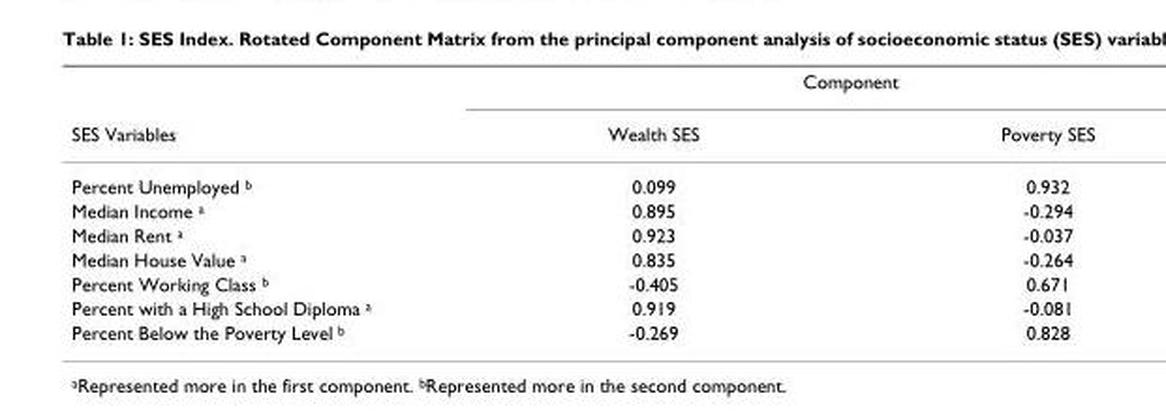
<table><thead><tr><td rowspan="2">SES Variables</td><td colspan="2">Component</td></tr><tr><td>Wealth SES</td><td>Poverty SES</td></tr></thead><tbody><tr><td>Percent Unemployed <sup>b</sup></td><td>0.099</td><td>0.932</td></tr><tr><td>Median Income <sup>a</sup></td><td>0.895</td><td>-0.294</td></tr><tr><td>Median Rent <sup>a</sup></td><td>0.923</td><td>-0.037</td></tr><tr><td>Median House Value <sup>a</sup></td><td>0.835</td><td>-0.264</td></tr><tr><td>Percent Working Class <sup>b</sup></td><td>-0.405</td><td>0.671</td></tr><tr><td>Percent with a High School Diploma <sup>a</sup></td><td>0.919</td><td>-0.081</td></tr><tr><td>Percent Below the Poverty Level <sup>b</sup></td><td>-0.269</td><td>0.828</td></tr></tbody></table>